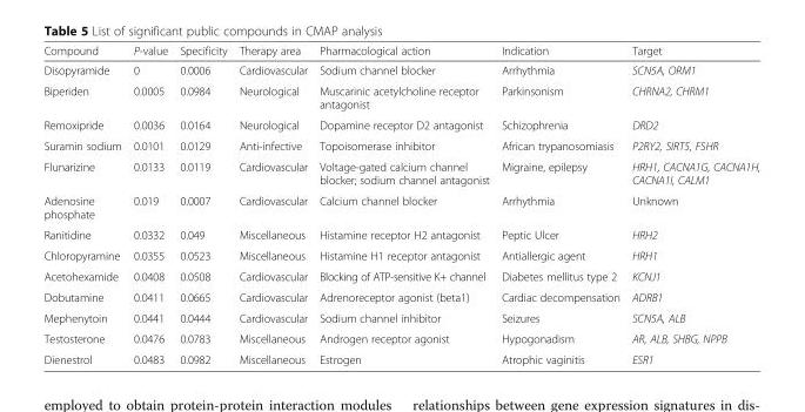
<table><thead><tr><td>Compound</td><td>P-value</td><td>Specificity</td><td>Therapy area</td><td>Pharmacological action</td><td>Indication</td><td>Target</td></tr></thead><tbody><tr><td>Disopyramide</td><td>0</td><td>0.0006</td><td>Cardiovascular</td><td>Sodium channel blocker</td><td>Arrhythmia</td><td>SCN5A, ORM1</td></tr><tr><td>Biperiden</td><td>0.0005</td><td>0.0984</td><td>Neurological</td><td>Muscarinic acetylcholine receptor antagonist</td><td>Parkinsonism</td><td>CHRNA2, CHRM1</td></tr><tr><td>Remoxipride</td><td>0.0036</td><td>0.0164</td><td>Neurological</td><td>Dopamine receptor D2 antagonist</td><td>Schizophrenia</td><td>DRD2</td></tr><tr><td>Suramin sodium</td><td>0.0101</td><td>0.0129</td><td>Anti-infective</td><td>Topoisomerase inhibitor</td><td>African trypanosomiasis</td><td>P2RY2, SIRT5, FSHR</td></tr><tr><td>Flunarizine</td><td>0.0133</td><td>0.0119</td><td>Cardiovascular</td><td>Voltage-gated calcium channel blocker; sodium channel antagonist</td><td>Migraine, epilepsy</td><td>HRH1, CACNA1G, CACNA1H, CACNA1I, CALM1</td></tr><tr><td>Adenosine phosphate</td><td>0.019</td><td>0.0007</td><td>Cardiovascular</td><td>Calcium channel blocker</td><td>Arrhythmia</td><td>Unknown</td></tr><tr><td>Ranitidine</td><td>0.0332</td><td>0.049</td><td>Miscellaneous</td><td>Histamine receptor H2 antagonist</td><td>Peptic Ulcer</td><td>HRH2</td></tr><tr><td>Chloropyramine</td><td>0.0355</td><td>0.0523</td><td>Miscellaneous</td><td>Histamine H1 receptor antagonist</td><td>Antiallergic agent</td><td>HRH1</td></tr><tr><td>Acetohexamide</td><td>0.0408</td><td>0.0508</td><td>Cardiovascular</td><td>Blocking of ATP-sensitive K+ channel</td><td>Diabetes mellitus type 2</td><td>KCNJ1</td></tr><tr><td>Dobutamine</td><td>0.0411</td><td>0.0665</td><td>Cardiovascular</td><td>Adrenoreceptor agonist (beta1)</td><td>Cardiac decompensation</td><td>ADRB1</td></tr><tr><td>Mephenytoin</td><td>0.0441</td><td>0.0444</td><td>Cardiovascular</td><td>Sodium channel inhibitor</td><td>Seizures</td><td>SCN5A, ALB</td></tr><tr><td>Testosterone</td><td>0.0476</td><td>0.0783</td><td>Miscellaneous</td><td>Androgen receptor agonist</td><td>Hypogonadism</td><td>AR, ALB, SHBG, NPPB</td></tr><tr><td>Dienestrol</td><td>0.0483</td><td>0.0982</td><td>Miscellaneous</td><td>Estrogen</td><td>Atrophic vaginitis</td><td>ESR1</td></tr></tbody></table>